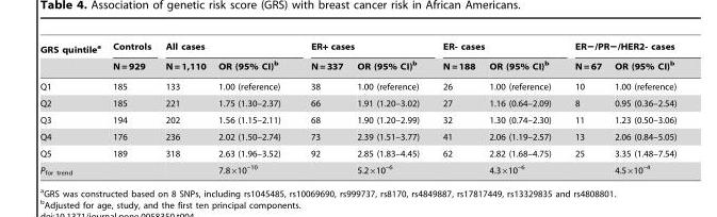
<table><thead><tr><td rowspan="2">GRS quintile<sup>a</sup></td><td rowspan="2">Controls N = 929</td><td colspan="2">All cases</td><td colspan="2">ER+ cases</td><td colspan="2">ER- cases</td><td colspan="2">ER−/PR−/HER2- cases</td></tr><tr><td>N = 1,110</td><td>OR (95% CI)<sup>b</sup></td><td>N = 337</td><td>OR (95% CI)<sup>b</sup></td><td>N = 188</td><td>OR (95% CI)<sup>b</sup></td><td>N = 67</td><td>OR (95% CI)<sup>b</sup></td></tr></thead><tbody><tr><td>Q1</td><td>185</td><td>133</td><td>1.00 (reference)</td><td>38</td><td>1.00 (reference)</td><td>26</td><td>1.00 (reference)</td><td>10</td><td>1.00 (reference)</td></tr><tr><td>Q2</td><td>185</td><td>221</td><td>1.75 (1.30–2.37)</td><td>66</td><td>1.91 (1.20–3.02)</td><td>27</td><td>1.16 (0.64–2.09)</td><td>8</td><td>0.95 (0.36–2.54)</td></tr><tr><td>Q3</td><td>194</td><td>202</td><td>1.56 (1.15–2.11)</td><td>68</td><td>1.90 (1.20–2.99)</td><td>32</td><td>1.30 (0.74–2.30)</td><td>11</td><td>1.23 (0.50–3.06)</td></tr><tr><td>Q4</td><td>176</td><td>236</td><td>2.02 (1.50–2.74)</td><td>73</td><td>2.39 (1.51–3.77)</td><td>41</td><td>2.06 (1.19–2.57)</td><td>13</td><td>2.06 (0.84–5.05)</td></tr><tr><td>Q5</td><td>189</td><td>318</td><td>2.63 (1.96–3.52)</td><td>92</td><td>2.85 (1.83–4.45)</td><td>62</td><td>2.82 (1.68–4.75)</td><td>25</td><td>3.35 (1.48–7.54)</td></tr><tr><td>P<sub>for trend</sub></td><td></td><td></td><td>7.8×10<sup>–10</sup></td><td></td><td>5.2×10<sup>–6</sup></td><td></td><td>4.3×10<sup>–6</sup></td><td></td><td>4.5×10<sup>–4</sup></td></tr></tbody></table>